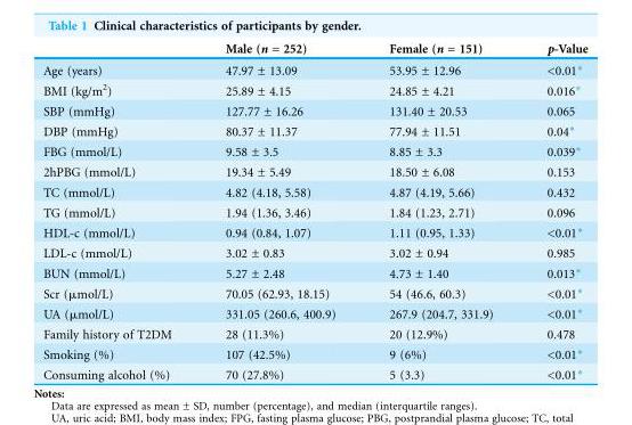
<table><thead><tr><td></td><td>Male (n = 252)</td><td>Female (n = 151)</td><td>p-Value</td></tr></thead><tbody><tr><td>Age (years)</td><td>47.97 ± 13.09</td><td>53.95 ± 12.96</td><td>&lt;0.01*</td></tr><tr><td>BMI (kg/m<sup>2</sup>)</td><td>25.89 ± 4.15</td><td>24.85 ± 4.21</td><td>0.016*</td></tr><tr><td>SBP (mmHg)</td><td>127.77 ± 16.26</td><td>131.40 ± 20.53</td><td>0.065</td></tr><tr><td>DBP (mmHg)</td><td>80.37 ± 11.37</td><td>77.94 ± 11.51</td><td>0.04*</td></tr><tr><td>FBG (mmol/L)</td><td>9.58 ± 3.5</td><td>8.85 ± 3.3</td><td>0.039*</td></tr><tr><td>2hPBG (mmol/L)</td><td>19.34 ± 5.49</td><td>18.50 ± 6.08</td><td>0.153</td></tr><tr><td>TC (mmol/L)</td><td>4.82 (4.18, 5.58)</td><td>4.87 (4.19, 5.66)</td><td>0.432</td></tr><tr><td>TG (mmol/L)</td><td>1.94 (1.36, 3.46)</td><td>1.84 (1.23, 2.71)</td><td>0.096</td></tr><tr><td>HDL-c (mmol/L)</td><td>0.94 (0.84, 1.07)</td><td>1.11 (0.95, 1.33)</td><td>&lt;0.01*</td></tr><tr><td>LDL-c (mmol/L)</td><td>3.02 ± 0.83</td><td>3.02 ± 0.94</td><td>0.985</td></tr><tr><td>BUN (mmol/L)</td><td>5.27 ± 2.48</td><td>4.73 ± 1.40</td><td>0.013*</td></tr><tr><td>Scr (μmol/L)</td><td>70.05 (62.93, 18.15)</td><td>54 (46.6, 60.3)</td><td>&lt;0.01*</td></tr><tr><td>UA (μmol/L)</td><td>331.05 (260.6, 400.9)</td><td>267.9 (204.7, 331.9)</td><td>&lt;0.01*</td></tr><tr><td>Family history of T2DM</td><td>28 (11.3%)</td><td>20 (12.9%)</td><td>0.478</td></tr><tr><td>Smoking (%)</td><td>107 (42.5%)</td><td>9 (6%)</td><td>&lt;0.01*</td></tr><tr><td>Consuming alcohol (%)</td><td>70 (27.8%)</td><td>5 (3.3)</td><td>&lt;0.01*</td></tr></tbody></table>